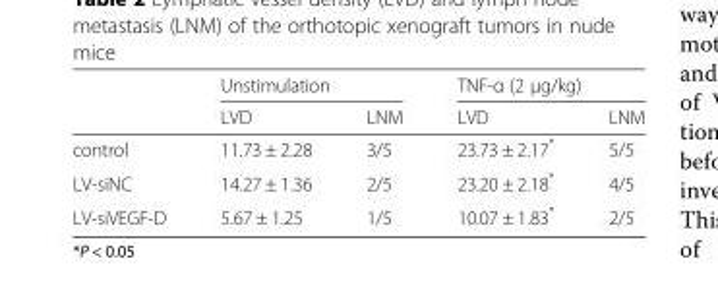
<table><thead><tr><td rowspan="2"></td><td colspan="2">Unstimulation</td><td colspan="2">TNF-α (2 μg/kg)</td></tr><tr><td>LVD</td><td>LNM</td><td>LVD</td><td>LNM</td></tr></thead><tbody><tr><td>control</td><td>11.73 ± 2.28</td><td>3/5</td><td>23.73 ± 2.17*</td><td>5/5</td></tr><tr><td>LV-siNC</td><td>14.27 ± 1.36</td><td>2/5</td><td>23.20 ± 2.18*</td><td>4/5</td></tr><tr><td>LV-siVEGF-D</td><td>5.67 ± 1.25</td><td>1/5</td><td>10.07 ± 1.83*</td><td>2/5</td></tr></tbody></table>